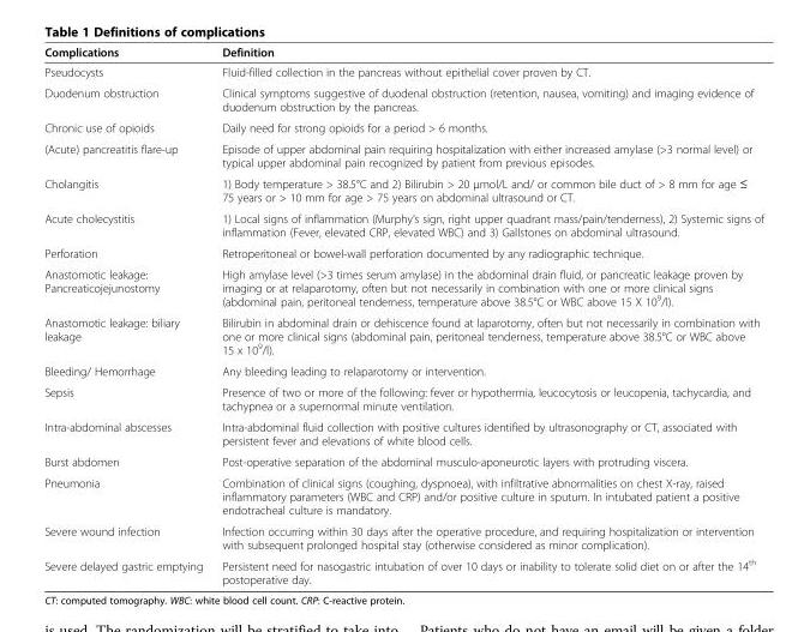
<table><thead><tr><td>Complications</td><td>Definition</td></tr></thead><tbody><tr><td>Pseudocysts</td><td>Fluid-filled collection in the pancreas without epithelial cover proven by CT.</td></tr><tr><td>Duodenum obstruction</td><td>Clinical symptoms suggestive of duodenal obstruction (retention, nausea, vomiting) and imaging evidence of duodenum obstruction by the pancreas.</td></tr><tr><td>Chronic use of opioids</td><td>Daily need for strong opioids for a period &gt; 6 months.</td></tr><tr><td>(Acute) pancreatitis flare-up</td><td>Episode of upper abdominal pain requiring hospitalization with either increased amylase (&gt;3 normal level) or typical upper abdominal pain recognized by patient from previous episodes.</td></tr><tr><td>Cholangitis</td><td>1) Body temperature &gt; 38.5°C and 2) Bilirubin &gt; 20 μmol/L and/ or common bile duct of &gt; 8 mm for age ≤ 75 years or &gt; 10 mm for age &gt; 75 years on abdominal ultrasound or CT.</td></tr><tr><td>Acute cholecystitis</td><td>1) Local signs of inflammation (Murphy’s sign, right upper quadrant mass/pain/tenderness), 2) Systemic signs of inflammation (Fever, elevated CRP, elevated WBC) and 3) Gallstones on abdominal ultrasound.</td></tr><tr><td>Perforation</td><td>Retroperitoneal or bowel-wall perforation documented by any radiographic technique.</td></tr><tr><td>Anastomotic leakage: Pancreaticojejunostomy</td><td>High amylase level (&gt;3 times serum amylase) in the abdominal drain fluid, or pancreatic leakage proven by imaging or at relaparotomy, often but not necessarily in combination with one or more clinical signs (abdominal pain, peritoneal tenderness, temperature above 38.5°C or WBC above 15 X 10<sup>9</sup>/l).</td></tr><tr><td>Anastomotic leakage: biliary leakage</td><td>Bilirubin in abdominal drain or dehiscence found at laparotomy, often but not necessarily in combination with one or more clinical signs (abdominal pain, peritoneal tenderness, temperature above 38.5°C or WBC above 15 x 10<sup>9</sup>/l).</td></tr><tr><td>Bleeding/ Hemorrhage</td><td>Any bleeding leading to relaparotomy or intervention.</td></tr><tr><td>Sepsis</td><td>Presence of two or more of the following: fever or hypothermia, leucocytosis or leucopenia, tachycardia, and tachypnea or a supernormal minute ventilation.</td></tr><tr><td>Intra-abdominal abscesses</td><td>Intra-abdominal fluid collection with positive cultures identified by ultrasonography or CT, associated with persistent fever and elevations of white blood cells.</td></tr><tr><td>Burst abdomen</td><td>Post-operative separation of the abdominal musculo-aponeurotic layers with protruding viscera.</td></tr><tr><td>Pneumonia</td><td>Combination of clinical signs (coughing, dyspnoea), with infiltrative abnormalities on chest X-ray, raised inflammatory parameters (WBC and CRP) and/or positive culture in sputum. In intubated patient a positive endotracheal culture is mandatory.</td></tr><tr><td>Severe wound infection</td><td>Infection occurring within 30 days after the operative procedure, and requiring hospitalization or intervention with subsequent prolonged hospital stay (otherwise considered as minor complication).</td></tr><tr><td>Severe delayed gastric emptying</td><td>Persistent need for nasogastric intubation of over 10 days or inability to tolerate solid diet on or after the 14<sup>th</sup> postoperative day.</td></tr></tbody></table>